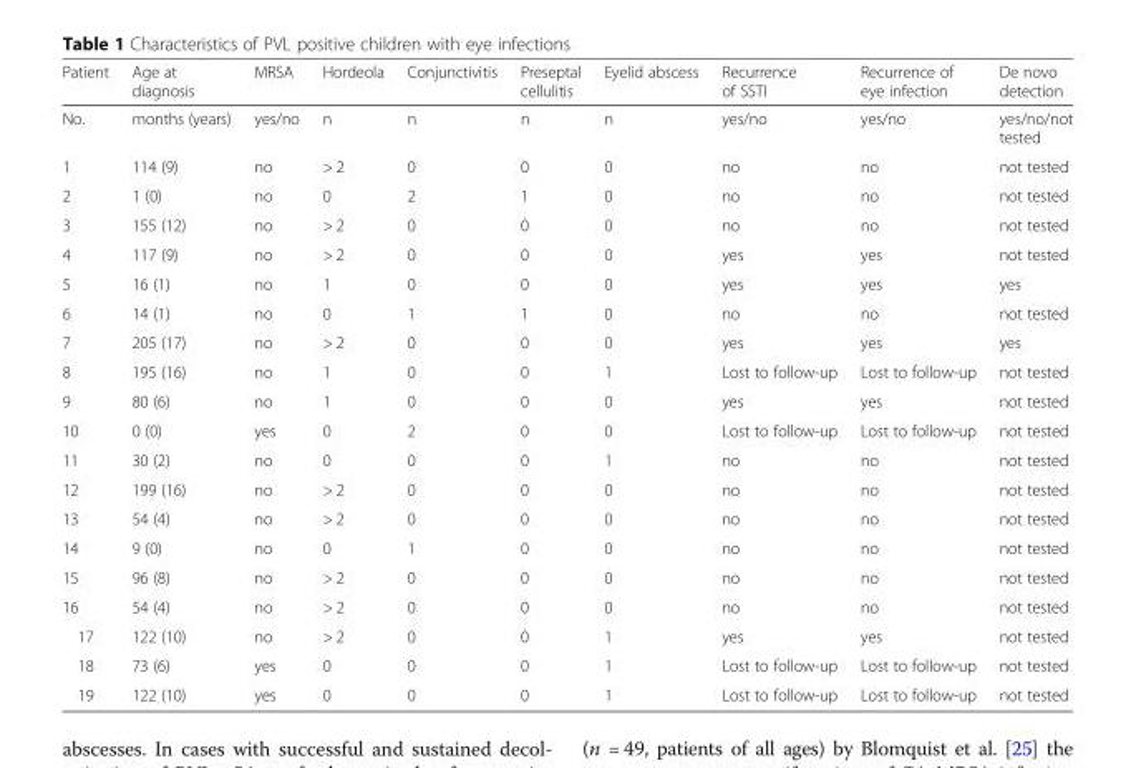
<table><thead><tr><td>Patient</td><td>Age at diagnosis</td><td>MRSA</td><td>Hordeola</td><td>Conjunctivitis</td><td>Preseptal cellulitis</td><td>Eyelid abscess</td><td>Recurrence of SSTI</td><td>Recurrence of eye infection</td><td>De novo detection</td></tr></thead><tbody><tr><td>No.</td><td>months (years)</td><td>yes/no</td><td>n</td><td>n</td><td>n</td><td>n</td><td>yes/no</td><td>yes/no</td><td>yes/no/not tested</td></tr><tr><td>1</td><td>114 (9)</td><td>no</td><td>&gt; 2</td><td>0</td><td>0</td><td>0</td><td>no</td><td>no</td><td>not tested</td></tr><tr><td>2</td><td>1 (0)</td><td>no</td><td>0</td><td>2</td><td>1</td><td>0</td><td>no</td><td>no</td><td>not tested</td></tr><tr><td>3</td><td>155 (12)</td><td>no</td><td>&gt; 2</td><td>0</td><td>0</td><td>0</td><td>no</td><td>no</td><td>not tested</td></tr><tr><td>4</td><td>117 (9)</td><td>no</td><td>&gt; 2</td><td>0</td><td>0</td><td>0</td><td>yes</td><td>yes</td><td>not tested</td></tr><tr><td>5</td><td>16 (1)</td><td>no</td><td>1</td><td>0</td><td>0</td><td>0</td><td>yes</td><td>yes</td><td>yes</td></tr><tr><td>6</td><td>14 (1)</td><td>no</td><td>0</td><td>1</td><td>1</td><td>0</td><td>no</td><td>no</td><td>not tested</td></tr><tr><td>7</td><td>205 (17)</td><td>no</td><td>&gt; 2</td><td>0</td><td>0</td><td>0</td><td>yes</td><td>yes</td><td>yes</td></tr><tr><td>8</td><td>195 (16)</td><td>no</td><td>1</td><td>0</td><td>0</td><td>1</td><td>Lost to follow-up</td><td>Lost to follow-up</td><td>not tested</td></tr><tr><td>9</td><td>80 (6)</td><td>no</td><td>1</td><td>0</td><td>0</td><td>0</td><td>yes</td><td>yes</td><td>not tested</td></tr><tr><td>10</td><td>0 (0)</td><td>yes</td><td>0</td><td>2</td><td>0</td><td>0</td><td>Lost to follow-up</td><td>Lost to follow-up</td><td>not tested</td></tr><tr><td>11</td><td>30 (2)</td><td>no</td><td>0</td><td>0</td><td>0</td><td>1</td><td>no</td><td>no</td><td>not tested</td></tr><tr><td>12</td><td>199 (16)</td><td>no</td><td>&gt; 2</td><td>0</td><td>0</td><td>0</td><td>no</td><td>no</td><td>not tested</td></tr><tr><td>13</td><td>54 (4)</td><td>no</td><td>&gt; 2</td><td>0</td><td>0</td><td>0</td><td>no</td><td>no</td><td>not tested</td></tr><tr><td>14</td><td>9 (0)</td><td>no</td><td>0</td><td>1</td><td>0</td><td>0</td><td>no</td><td>no</td><td>not tested</td></tr><tr><td>15</td><td>96 (8)</td><td>no</td><td>&gt; 2</td><td>0</td><td>0</td><td>0</td><td>no</td><td>no</td><td>not tested</td></tr><tr><td>16</td><td>54 (4)</td><td>no</td><td>&gt; 2</td><td>0</td><td>0</td><td>0</td><td>no</td><td>no</td><td>not tested</td></tr><tr><td>17</td><td>122 (10)</td><td>no</td><td>&gt; 2</td><td>0</td><td>0</td><td>1</td><td>yes</td><td>yes</td><td>not tested</td></tr><tr><td>18</td><td>73 (6)</td><td>yes</td><td>0</td><td>0</td><td>0</td><td>1</td><td>Lost to follow-up</td><td>Lost to follow-up</td><td>not tested</td></tr><tr><td>19</td><td>122 (10)</td><td>yes</td><td>0</td><td>0</td><td>0</td><td>1</td><td>Lost to follow-up</td><td>Lost to follow-up</td><td>not tested</td></tr></tbody></table>